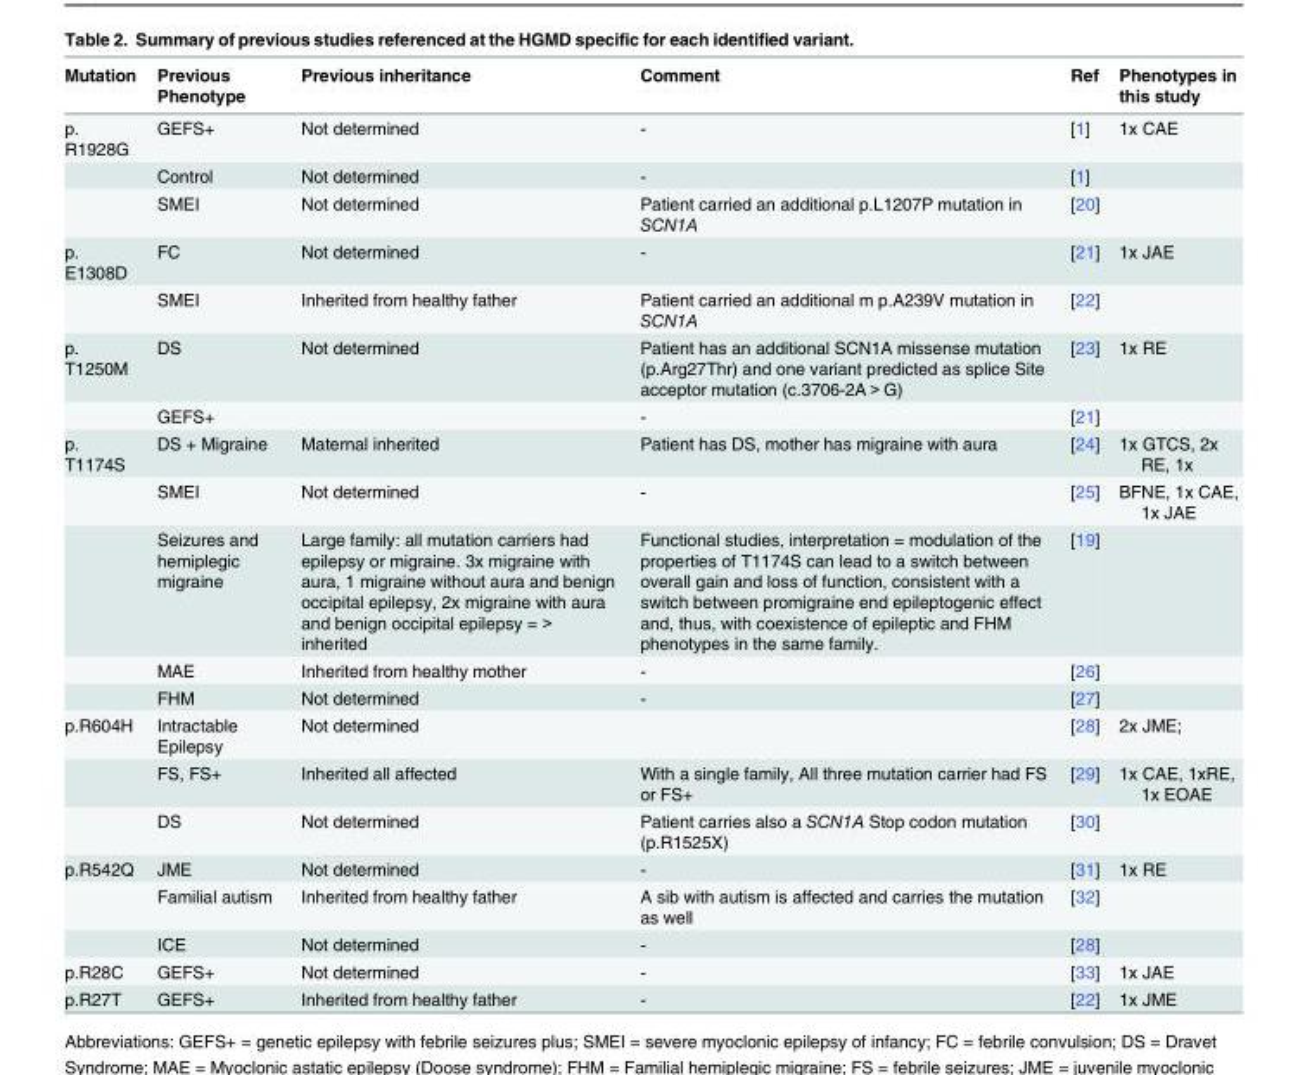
<table><thead><tr><td>Mutation</td><td>Previous Phenotype</td><td>Previous inheritance</td><td>Comment</td><td>Ref</td><td>Phenotypes in this study</td></tr></thead><tbody><tr><td rowspan="3">p. R1928G</td><td>GEFS+</td><td>Not determined</td><td>-</td><td>[1]</td><td>1x CAE</td></tr><tr><td>Control</td><td>Not determined</td><td>-</td><td>[1]</td><td></td></tr><tr><td>SMEI</td><td>Not determined</td><td>Patient carried an additional p.L1207P mutation in SCN1A</td><td>[20]</td><td></td></tr><tr><td rowspan="2">p. E1308D</td><td>FC</td><td>Not determined</td><td>-</td><td>[21]</td><td>1x JAE</td></tr><tr><td>SMEI</td><td>Inherited from healthy father</td><td>Patient carried an additional m p.A239V mutation in SCN1A</td><td>[22]</td><td></td></tr><tr><td rowspan="2">p. T1250M</td><td>DS</td><td>Not determined</td><td>Patient has an additional SCN1A missense mutation (p.Arg27Thr) and one variant predicted as splice Site acceptor mutation (c.3706-2A &gt; G)</td><td>[23]</td><td>1x RE</td></tr><tr><td>GEFS+</td><td></td><td>-</td><td>[21]</td><td></td></tr><tr><td rowspan="5">p. T1174S</td><td>DS + Migraine</td><td>Maternal inherited</td><td>Patient has DS, mother has migraine with aura</td><td>[24]</td><td>1x GTCS, 2x RE, 1x</td></tr><tr><td>SMEI</td><td>Not determined</td><td>-</td><td>[25]</td><td>BFNE, 1x CAE, 1x JAE</td></tr><tr><td>Seizures and hemiplegic migraine</td><td>Large family: all mutation carriers had epilepsy or migraine. 3x migraine with aura, 1 migraine without aura and benign occipital epilepsy, 2x migraine with aura and benign occipital epilepsy = &gt; inherited</td><td>Functional studies, interpretation = modulation of the properties of T1174S can lead to a switch between overall gain and loss of function, consistent with a switch between promigraine end epileptogenic effect and, thus, with coexistence of epileptic and FHM phenotypes in the same family.</td><td>[19]</td><td></td></tr><tr><td>MAE</td><td>Inherited from healthy mother</td><td>-</td><td>[26]</td><td></td></tr><tr><td>FHM</td><td>Not determined</td><td>-</td><td>[27]</td><td></td></tr><tr><td rowspan="3">p.R604H</td><td>Intractable Epilepsy</td><td>Not determined</td><td></td><td>[28]</td><td>2x JME;</td></tr><tr><td>FS, FS+</td><td>Inherited all affected</td><td>With a single family, All three mutation carrier had FS or FS+</td><td>[29]</td><td>1x CAE, 1xRE, 1x EOAE</td></tr><tr><td>DS</td><td>Not determined</td><td>Patient carries also a SCN1A Stop codon mutation (p.R1525X)</td><td>[30]</td><td></td></tr><tr><td rowspan="3">p.R542Q</td><td>JME</td><td>Not determined</td><td>-</td><td>[31]</td><td>1x RE</td></tr><tr><td>Familial autism</td><td>Inherited from healthy father</td><td>A sib with autism is affected and carries the mutation as well</td><td>[32]</td><td></td></tr><tr><td>ICE</td><td>Not determined</td><td>-</td><td>[28]</td><td></td></tr><tr><td>p.R28C</td><td>GEFS+</td><td>Not determined</td><td>-</td><td>[33]</td><td>1x JAE</td></tr><tr><td>p.R27T</td><td>GEFS+</td><td>Inherited from healthy father</td><td>-</td><td>[22]</td><td>1x JME</td></tr></tbody></table>